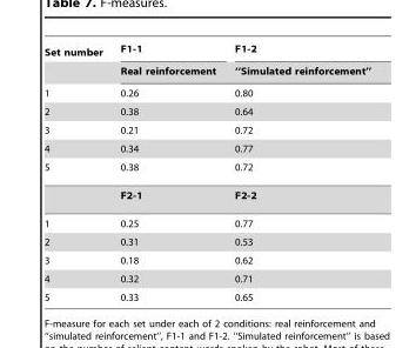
<table><thead><tr><td rowspan="2">Set number</td><td rowspan="2">F1-1 Real reinforcement</td><td rowspan="2">F1-2 ‘‘Simulated reinforcement’’</td></tr><tr></tr></thead><tbody><tr><td>1</td><td>0.26</td><td>0.80</td></tr><tr><td>2</td><td>0.38</td><td>0.64</td></tr><tr><td>3</td><td>0.21</td><td>0.72</td></tr><tr><td>4</td><td>0.34</td><td>0.77</td></tr><tr><td rowspan="2">5</td><td>0.38</td><td>0.72</td></tr><tr><td>F2-1</td><td>F2-2</td></tr><tr><td>1</td><td>0.25</td><td>0.77</td></tr><tr><td>2</td><td>0.31</td><td>0.53</td></tr><tr><td>3</td><td>0.18</td><td>0.62</td></tr><tr><td>4</td><td>0.32</td><td>0.71</td></tr><tr><td>5</td><td>0.33</td><td>0.65</td></tr></tbody></table>